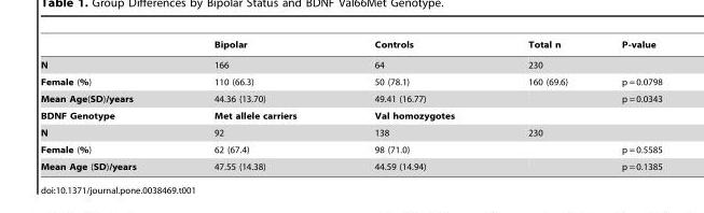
<table><thead><tr><td></td><td>Bipolar</td><td>Controls</td><td>Total n</td><td>P-value</td></tr></thead><tbody><tr><td>N</td><td>166</td><td>64</td><td>230</td><td></td></tr><tr><td>Female (%)</td><td>110 (66.3)</td><td>50 (78.1)</td><td>160 (69.6)</td><td>p = 0.0798</td></tr><tr><td>Mean Age(SD)/years</td><td>44.36 (13.70)</td><td>49.41 (16.77)</td><td></td><td>p = 0.0343</td></tr><tr><td>BDNF Genotype</td><td>Met allele carriers</td><td>Val homozygotes</td><td></td><td></td></tr><tr><td>N</td><td>92</td><td>138</td><td>230</td><td></td></tr><tr><td>Female (%)</td><td>62 (67.4)</td><td>98 (71.0)</td><td></td><td>p = 0.5585</td></tr><tr><td>Mean Age (SD)/years</td><td>47.55 (14.38)</td><td>44.59 (14.94)</td><td></td><td>p = 0.1385</td></tr></tbody></table>